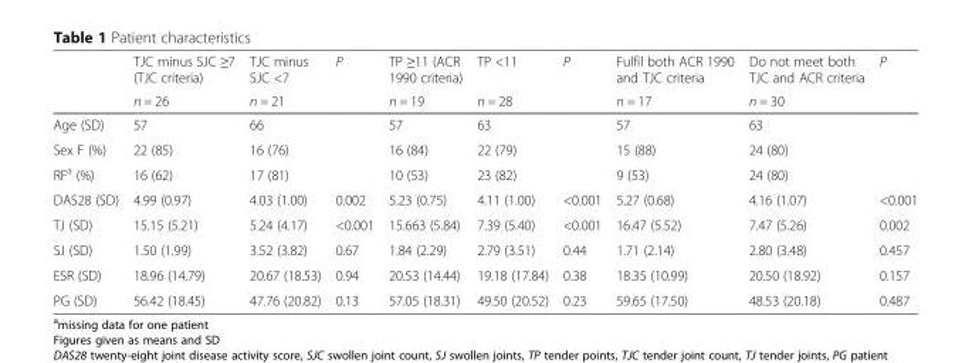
<table><thead><tr><td rowspan="2"></td><td rowspan="2">TJC minus SJC ≥7 (TJC criteria) n = 26</td><td rowspan="2">TJC minus SJC &lt;7 n = 21</td><td rowspan="2">P</td><td rowspan="2">TP ≥11 (ACR 1990 criteria) n = 19</td><td rowspan="2">TP &lt;11 n = 28</td><td rowspan="2">P</td><td rowspan="2">Fulfil both ACR 1990 and TJC criteria n = 17</td><td rowspan="2">Do not meet both TJC and ACR criteria n = 30</td><td rowspan="2">P</td></tr><tr></tr></thead><tbody><tr><td>Age (SD)</td><td>57</td><td>66</td><td></td><td>57</td><td>63</td><td></td><td>57</td><td>63</td><td></td></tr><tr><td>Sex F (%)</td><td>22 (85)</td><td>16 (76)</td><td></td><td>16 (84)</td><td>22 (79)</td><td></td><td>15 (88)</td><td>24 (80)</td><td></td></tr><tr><td>RF<sup>a</sup> (%)</td><td>16 (62)</td><td>17 (81)</td><td></td><td>10 (53)</td><td>23 (82)</td><td></td><td>9 (53)</td><td>24 (80)</td><td></td></tr><tr><td>DAS28 (SD)</td><td>4.99 (0.97)</td><td>4.03 (1.00)</td><td>0.002</td><td>5.23 (0.75)</td><td>4.11 (1.00)</td><td>&lt;0.001</td><td>5.27 (0.68)</td><td>4.16 (1.07)</td><td>&lt;0.001</td></tr><tr><td>TJ (SD)</td><td>15.15 (5.21)</td><td>5.24 (4.17)</td><td>&lt;0.001</td><td>15.663 (5.84)</td><td>7.39 (5.40)</td><td>&lt;0.001</td><td>16.47 (5.52)</td><td>7.47 (5.26)</td><td>0.002</td></tr><tr><td>SJ (SD)</td><td>1.50 (1.99)</td><td>3.52 (3.82)</td><td>0.67</td><td>1.84 (2.29)</td><td>2.79 (3.51)</td><td>0.44</td><td>1.71 (2.14)</td><td>2.80 (3.48)</td><td>0.457</td></tr><tr><td>ESR (SD)</td><td>18.96 (14.79)</td><td>20.67 (18.53)</td><td>0.94</td><td>20.53 (14.44)</td><td>19.18 (17.84)</td><td>0.38</td><td>18.35 (10.99)</td><td>20.50 (18.92)</td><td>0.157</td></tr><tr><td>PG (SD)</td><td>56.42 (18.45)</td><td>47.76 (20.82)</td><td>0.13</td><td>57.05 (18.31)</td><td>49.50 (20.52)</td><td>0.23</td><td>59.65 (17.50)</td><td>48.53 (20.18)</td><td>0.487</td></tr></tbody></table>